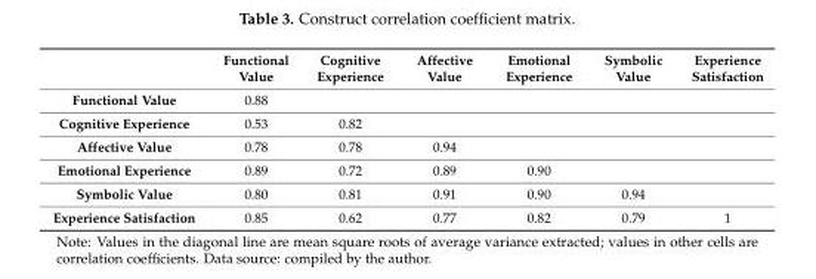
<table><thead><tr><td></td><td>Functional Value</td><td>Cognitive Experience</td><td>Affective Value</td><td>Emotional Experience</td><td>Symbolic Value</td><td>Experience Satisfaction</td></tr></thead><tbody><tr><td>Functional Value</td><td>0.88</td><td></td><td></td><td></td><td></td><td></td></tr><tr><td>Cognitive Experience</td><td>0.53</td><td>0.82</td><td></td><td></td><td></td><td></td></tr><tr><td>Affective Value</td><td>0.78</td><td>0.78</td><td>0.94</td><td></td><td></td><td></td></tr><tr><td>Emotional Experience</td><td>0.89</td><td>0.72</td><td>0.89</td><td>0.90</td><td></td><td></td></tr><tr><td>Symbolic Value</td><td>0.80</td><td>0.81</td><td>0.91</td><td>0.90</td><td>0.94</td><td></td></tr><tr><td>Experience Satisfaction</td><td>0.85</td><td>0.62</td><td>0.77</td><td>0.82</td><td>0.79</td><td>1</td></tr></tbody></table>